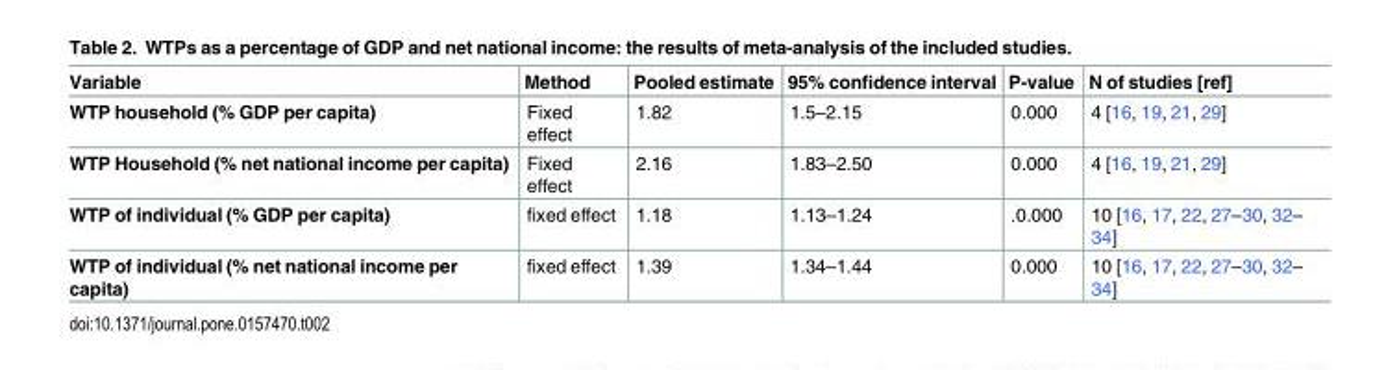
<table><thead><tr><td>Variable</td><td>Method</td><td>Pooled estimate</td><td>95% confidence interval</td><td>P-value</td><td>N of studies [ref]</td></tr></thead><tbody><tr><td>WTP household (% GDP per capita)</td><td>Fixed effect</td><td>1.82</td><td>1.5–2.15</td><td>0.000</td><td>4 [16, 19, 21, 29]</td></tr><tr><td>WTP Household (% net national income per capita)</td><td>Fixed effect</td><td>2.16</td><td>1.83–2.50</td><td>0.000</td><td>4 [16, 19, 21, 29]</td></tr><tr><td>WTP of individual (% GDP per capita)</td><td>fixed effect</td><td>1.18</td><td>1.13–1.24</td><td>.0.000</td><td>10 [16, 17, 22, 27–30, 32– 34]</td></tr><tr><td>WTP of individual (% net national income per capita)</td><td>fixed effect</td><td>1.39</td><td>1.34–1.44</td><td>0.000</td><td>10 [16, 17, 22, 27–30, 32– 34]</td></tr></tbody></table>